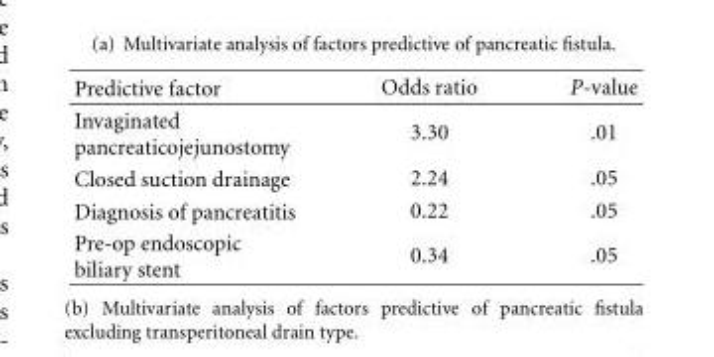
<table><thead><tr><td>Predictive factor</td><td>Odds ratio</td><td>P-value</td></tr></thead><tbody><tr><td>Invaginated pancreaticojejunostomy</td><td>3.30</td><td>.01</td></tr><tr><td>Closed suction drainage</td><td>2.24</td><td>.05</td></tr><tr><td>Diagnosis of pancreatitis</td><td>0.22</td><td>.05</td></tr><tr><td>Pre-op endoscopic biliary stent</td><td>0.34</td><td>.05</td></tr></tbody></table>